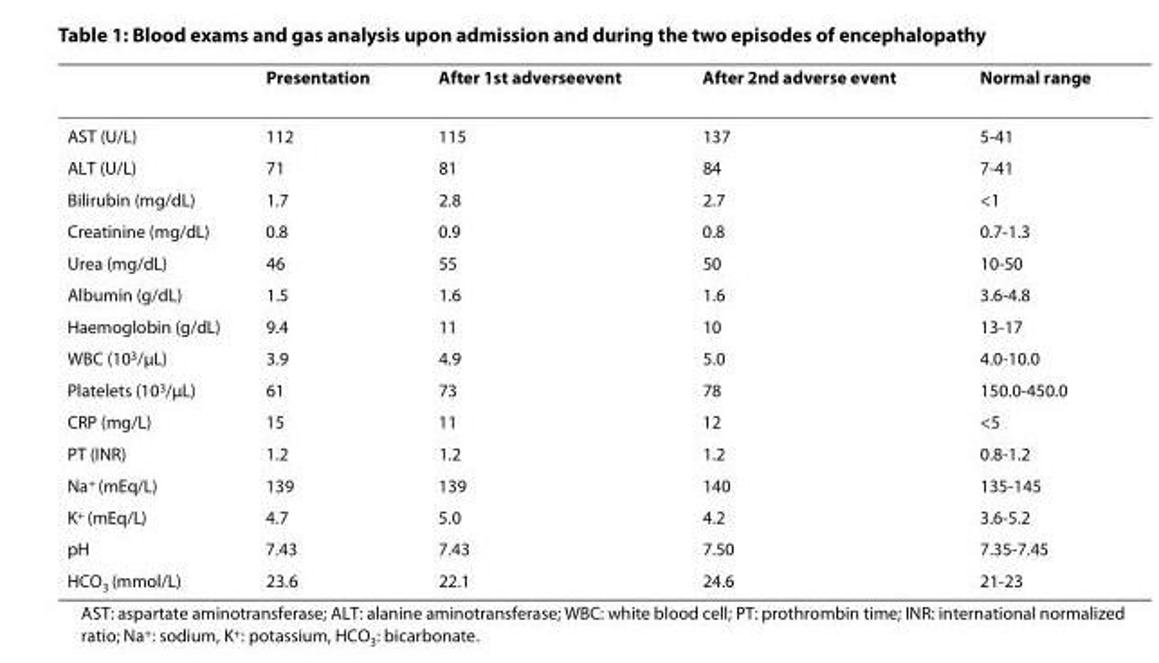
<table><thead><tr><td></td><td>Presentation</td><td>After 1st adverseevent</td><td>After 2nd adverse event</td><td>Normal range</td></tr></thead><tbody><tr><td>AST (U/L)</td><td>112</td><td>115</td><td>137</td><td>5-41</td></tr><tr><td>ALT (U/L)</td><td>71</td><td>81</td><td>84</td><td>7-41</td></tr><tr><td>Bilirubin (mg/dL)</td><td>1.7</td><td>2.8</td><td>2.7</td><td>&lt;1</td></tr><tr><td>Creatinine (mg/dL)</td><td>0.8</td><td>0.9</td><td>0.8</td><td>0.7-1.3</td></tr><tr><td>Urea (mg/dL)</td><td>46</td><td>55</td><td>50</td><td>10-50</td></tr><tr><td>Albumin (g/dL)</td><td>1.5</td><td>1.6</td><td>1.6</td><td>3.6-4.8</td></tr><tr><td>Haemoglobin (g/dL)</td><td>9.4</td><td>11</td><td>10</td><td>13-17</td></tr><tr><td>WBC (10<sup>3</sup>/μL)</td><td>3.9</td><td>4.9</td><td>5.0</td><td>4.0-10.0</td></tr><tr><td>Platelets (10<sup>3</sup>/μL)</td><td>61</td><td>73</td><td>78</td><td>150.0-450.0</td></tr><tr><td>CRP (mg/L)</td><td>15</td><td>11</td><td>12</td><td>&lt;5</td></tr><tr><td>PT (INR)</td><td>1.2</td><td>1.2</td><td>1.2</td><td>0.8-1.2</td></tr><tr><td>Na<sup>+</sup> (mEq/L)</td><td>139</td><td>139</td><td>140</td><td>135-145</td></tr><tr><td>K<sup>+</sup> (mEq/L)</td><td>4.7</td><td>5.0</td><td>4.2</td><td>3.6-5.2</td></tr><tr><td>pH</td><td>7.43</td><td>7.43</td><td>7.50</td><td>7.35-7.45</td></tr><tr><td>HCO<sub>3</sub> (mmol/L)</td><td>23.6</td><td>22.1</td><td>24.6</td><td>21-23</td></tr></tbody></table>